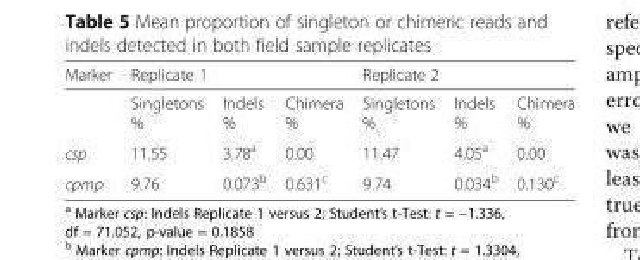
<table><thead><tr><td rowspan="2">Marker</td><td colspan="3">Replicate 1</td><td colspan="3">Replicate 2</td></tr><tr><td>Singletons %</td><td>Indels %</td><td>Chimera %</td><td>Singletons %</td><td>Indels %</td><td>Chimera %</td></tr></thead><tbody><tr><td>csp</td><td>11.55</td><td>3.78<sup>a</sup></td><td>0.00</td><td>11.47</td><td>4.05<sup>a</sup></td><td>0.00</td></tr><tr><td>cpmp</td><td>9.76</td><td>0.073<sup>b</sup></td><td>0.631<sup>c</sup></td><td>9.74</td><td>0.034<sup>b</sup></td><td>0.130<sup>c</sup></td></tr></tbody></table>